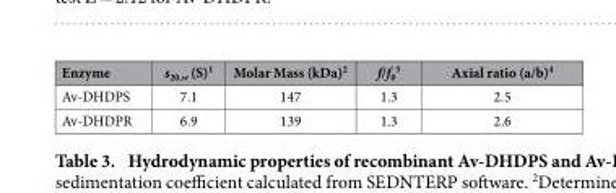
<table><thead><tr><td>Enzyme</td><td>s<sub>20,w</sub> (S)<sup>1</sup></td><td>Molar Mass (kDa)<sup>2</sup></td><td>f/f<sub>0</sub> <sup>3</sup></td><td>Axial ratio (a/b)<sup>4</sup></td></tr></thead><tbody><tr><td>Av-DHDPS</td><td>7.1</td><td>147</td><td>1.3</td><td>2.5</td></tr><tr><td>Av-DHDPR</td><td>6.9</td><td>139</td><td>1.3</td><td>2.6</td></tr></tbody></table>